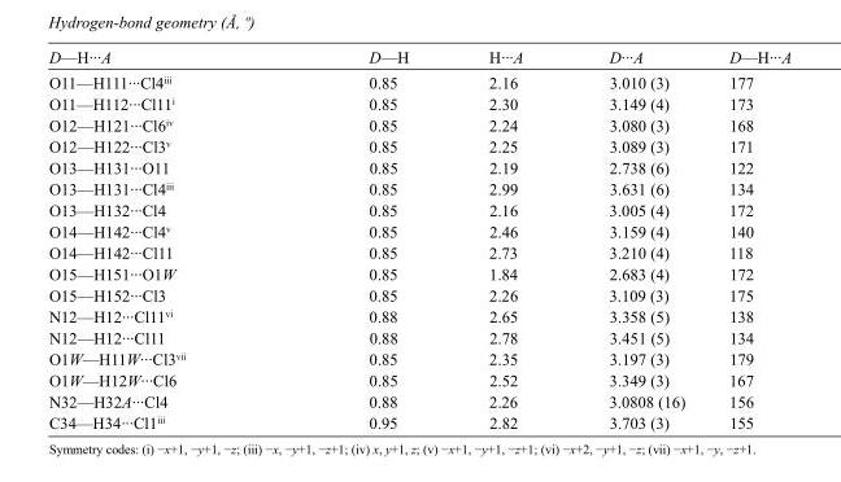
<table><tbody><tr><td>D—H···A</td><td>D—H</td><td>H···A</td><td>D···A</td><td>D—H···A</td></tr><tr><td>O11—H111···Cl4<sup>iii</sup></td><td>0.85</td><td>2.16</td><td>3.010 (3)</td><td>177</td></tr><tr><td>O11—H112···Cl11<sup>i</sup></td><td>0.85</td><td>2.30</td><td>3.149 (4)</td><td>173</td></tr><tr><td>O12—H121···Cl6<sup>iv</sup></td><td>0.85</td><td>2.24</td><td>3.080 (3)</td><td>168</td></tr><tr><td>O12—H122···Cl3<sup>v</sup></td><td>0.85</td><td>2.25</td><td>3.089 (3)</td><td>171</td></tr><tr><td>O13—H131···O11</td><td>0.85</td><td>2.19</td><td>2.738 (6)</td><td>122</td></tr><tr><td>O13—H131···Cl4<sup>iii</sup></td><td>0.85</td><td>2.99</td><td>3.631 (6)</td><td>134</td></tr><tr><td>O13—H132···Cl4</td><td>0.85</td><td>2.16</td><td>3.005 (4)</td><td>172</td></tr><tr><td>O14—H142···Cl4<sup>v</sup></td><td>0.85</td><td>2.46</td><td>3.159 (4)</td><td>140</td></tr><tr><td>O14—H142···Cl11</td><td>0.85</td><td>2.73</td><td>3.210 (4)</td><td>118</td></tr><tr><td>O15—H151···O1W</td><td>0.85</td><td>1.84</td><td>2.683 (4)</td><td>172</td></tr><tr><td>O15—H152···Cl3</td><td>0.85</td><td>2.26</td><td>3.109 (3)</td><td>175</td></tr><tr><td>N12—H12···Cl11<sup>vi</sup></td><td>0.88</td><td>2.65</td><td>3.358 (5)</td><td>138</td></tr><tr><td>N12—H12···Cl11</td><td>0.88</td><td>2.78</td><td>3.451 (5)</td><td>134</td></tr><tr><td>O1W—H11W···Cl3<sup>vii</sup></td><td>0.85</td><td>2.35</td><td>3.197 (3)</td><td>179</td></tr><tr><td>O1W—H12W···Cl6</td><td>0.85</td><td>2.52</td><td>3.349 (3)</td><td>167</td></tr><tr><td>N32—H32A···Cl4</td><td>0.88</td><td>2.26</td><td>3.0808 (16)</td><td>156</td></tr><tr><td>C34—H34···Cl1<sup>iii</sup></td><td>0.95</td><td>2.82</td><td>3.703 (3)</td><td>155</td></tr></tbody></table>